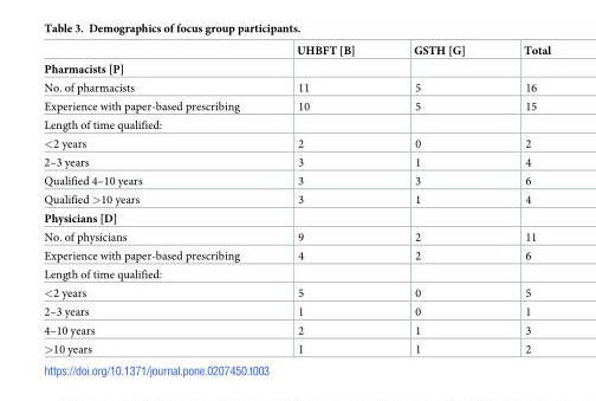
<table><thead><tr><td></td><td>UHBFT [B]</td><td>GSTH [G]</td><td>Total</td></tr></thead><tbody><tr><td colspan="4">Pharmacists [P]</td></tr><tr><td>No. of pharmacists</td><td>11</td><td>5</td><td>16</td></tr><tr><td>Experience with paper-based prescribing</td><td>10</td><td>5</td><td>15</td></tr><tr><td colspan="4">Length of time qualified:</td></tr><tr><td>&lt;2 years</td><td>2</td><td>0</td><td>2</td></tr><tr><td>2–3 years</td><td>3</td><td>1</td><td>4</td></tr><tr><td>Qualified 4–10 years</td><td>3</td><td>3</td><td>6</td></tr><tr><td>Qualified &gt;10 years</td><td>3</td><td>1</td><td>4</td></tr><tr><td colspan="4">Physicians [D]</td></tr><tr><td>No. of physicians</td><td>9</td><td>2</td><td>11</td></tr><tr><td>Experience with paper-based prescribing</td><td>4</td><td>2</td><td>6</td></tr><tr><td colspan="4">Length of time qualified:</td></tr><tr><td>&lt;2 years</td><td>5</td><td>0</td><td>5</td></tr><tr><td>2–3 years</td><td>1</td><td>0</td><td>1</td></tr><tr><td>4–10 years</td><td>2</td><td>1</td><td>3</td></tr><tr><td>&gt;10 years</td><td>1</td><td>1</td><td>2</td></tr></tbody></table>